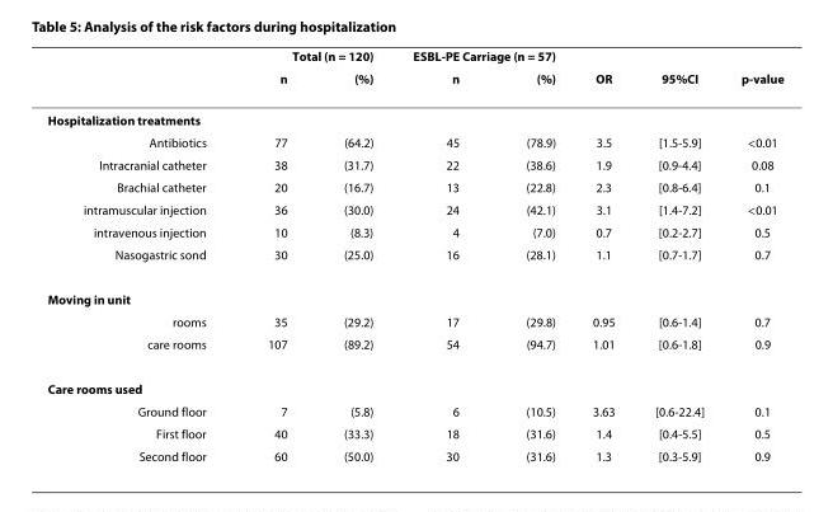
<table><thead><tr><td rowspan="2"></td><td colspan="2">Total (n = 120)</td><td colspan="2">ESBL-PE Carriage (n = 57)</td><td rowspan="2">OR</td><td rowspan="2">95%CI</td><td rowspan="2">p-value</td></tr><tr><td>n</td><td>(%)</td><td>n</td><td>(%)</td></tr></thead><tbody><tr><td colspan="8">Hospitalization treatments</td></tr><tr><td>Antibiotics</td><td>77</td><td>(64.2)</td><td>45</td><td>(78.9)</td><td>3.5</td><td>[1.5-5.9]</td><td>&lt;0.01</td></tr><tr><td>Intracranial catheter</td><td>38</td><td>(31.7)</td><td>22</td><td>(38.6)</td><td>1.9</td><td>[0.9-4.4]</td><td>0.08</td></tr><tr><td>Brachial catheter</td><td>20</td><td>(16.7)</td><td>13</td><td>(22.8)</td><td>2.3</td><td>[0.8-6.4]</td><td>0.1</td></tr><tr><td>intramuscular injection</td><td>36</td><td>(30.0)</td><td>24</td><td>(42.1)</td><td>3.1</td><td>[1.4-7.2]</td><td>&lt;0.01</td></tr><tr><td>intravenous injection</td><td>10</td><td>(8.3)</td><td>4</td><td>(7.0)</td><td>0.7</td><td>[0.2-2.7]</td><td>0.5</td></tr><tr><td>Nasogastric sond</td><td>30</td><td>(25.0)</td><td>16</td><td>(28.1)</td><td>1.1</td><td>[0.7-1.7]</td><td>0.7</td></tr><tr><td colspan="8">Moving in unit</td></tr><tr><td>rooms</td><td>35</td><td>(29.2)</td><td>17</td><td>(29.8)</td><td>0.95</td><td>[0.6-1.4]</td><td>0.7</td></tr><tr><td>care rooms</td><td>107</td><td>(89.2)</td><td>54</td><td>(94.7)</td><td>1.01</td><td>[0.6-1.8]</td><td>0.9</td></tr><tr><td colspan="8">Care rooms used</td></tr><tr><td>Ground floor</td><td>7</td><td>(5.8)</td><td>6</td><td>(10.5)</td><td>3.63</td><td>[0.6-22.4]</td><td>0.1</td></tr><tr><td>First floor</td><td>40</td><td>(33.3)</td><td>18</td><td>(31.6)</td><td>1.4</td><td>[0.4-5.5]</td><td>0.5</td></tr><tr><td>Second floor</td><td>60</td><td>(50.0)</td><td>30</td><td>(31.6)</td><td>1.3</td><td>[0.3-5.9]</td><td>0.9</td></tr></tbody></table>